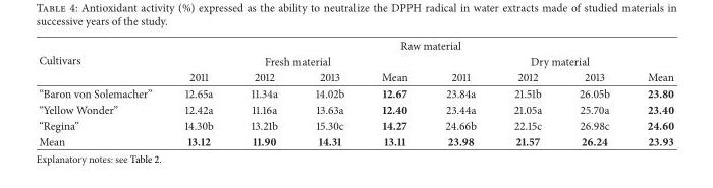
<table><thead><tr><td rowspan="3">Cultivars</td><td colspan="8">Raw material</td></tr><tr><td colspan="4">Fresh material</td><td colspan="4">Dry material</td></tr><tr><td>2011</td><td>2012</td><td>2013</td><td>Mean</td><td>2011</td><td>2012</td><td>2013</td><td>Mean</td></tr></thead><tbody><tr><td>“Baron von Solemacher”</td><td>12.65a</td><td>11.34a</td><td>14.02b</td><td>12.67</td><td>23.84a</td><td>21.51b</td><td>26.05b</td><td>23.80</td></tr><tr><td>“Yellow Wonder”</td><td>12.42a</td><td>11.16a</td><td>13.63a</td><td>12.40</td><td>23.44a</td><td>21.05a</td><td>25.70a</td><td>23.40</td></tr><tr><td>“Regina”</td><td>14.30b</td><td>13.21b</td><td>15.30c</td><td>14.27</td><td>24.66b</td><td>22.15c</td><td>26.98c</td><td>24.60</td></tr><tr><td>Mean</td><td>13.12</td><td>11.90</td><td>14.31</td><td>13.11</td><td>23.98</td><td>21.57</td><td>26.24</td><td>23.93</td></tr></tbody></table>